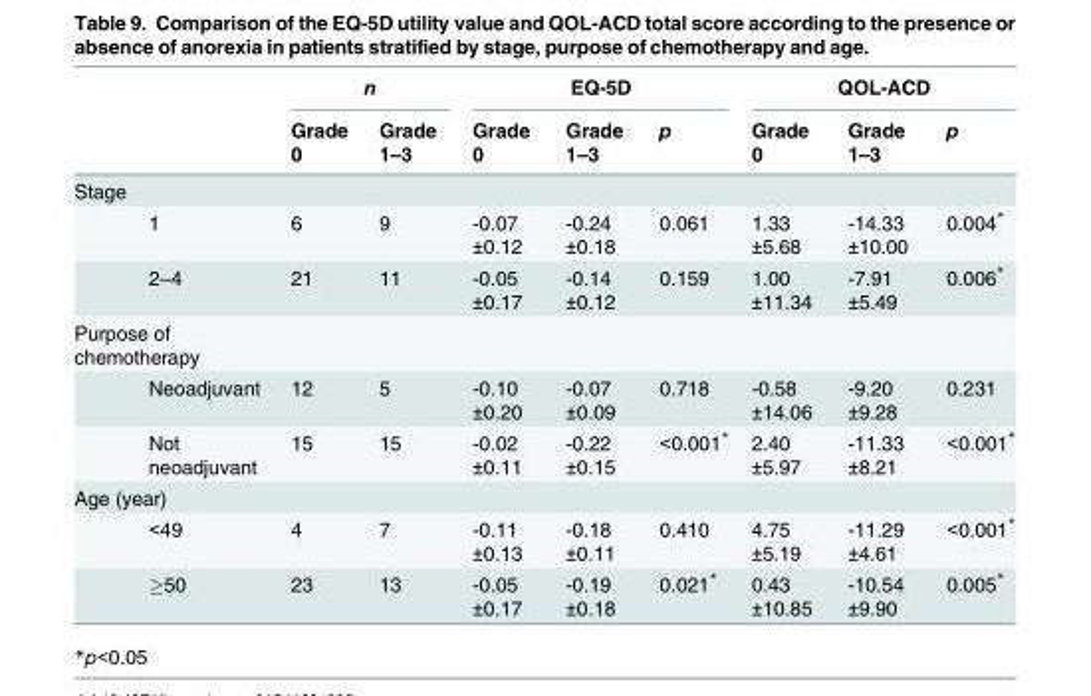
<table><thead><tr><td rowspan="2"></td><td rowspan="2"></td><td colspan="2">n</td><td colspan="3">EQ-5D</td><td colspan="3">QOL-ACD</td></tr><tr><td>Grade 0</td><td>Grade 1–3</td><td>Grade 0</td><td>Grade 1–3</td><td>p</td><td>Grade 0</td><td>Grade 1–3</td><td>p</td></tr></thead><tbody><tr><td colspan="10">Stage</td></tr><tr><td></td><td>1</td><td>6</td><td>9</td><td>-0.07 ±0.12</td><td>-0.24 ±0.18</td><td>0.061</td><td>1.33 ±5.68</td><td>-14.33 ±10.00</td><td>0.004*</td></tr><tr><td></td><td>2–4</td><td>21</td><td>11</td><td>-0.05 ±0.17</td><td>-0.14 ±0.12</td><td>0.159</td><td>1.00 ±11.34</td><td>-7.91 ±5.49</td><td>0.006*</td></tr><tr><td colspan="10">Purpose of chemotherapy</td></tr><tr><td></td><td>Neoadjuvant</td><td>12</td><td>5</td><td>-0.10 ±0.20</td><td>-0.07 ±0.09</td><td>0.718</td><td>-0.58 ±14.06</td><td>-9.20 ±9.28</td><td>0.231</td></tr><tr><td></td><td>Not neoadjuvant</td><td>15</td><td>15</td><td>-0.02 ±0.11</td><td>-0.22 ±0.15</td><td>&lt;0.001*</td><td>2.40 ±5.97</td><td>-11.33 ±8.21</td><td>&lt;0.001*</td></tr><tr><td colspan="10">Age (year)</td></tr><tr><td></td><td>&lt;49</td><td>4</td><td>7</td><td>-0.11 ±0.13</td><td>-0.18 ±0.11</td><td>0.410</td><td>4.75 ±5.19</td><td>-11.29 ±4.61</td><td>&lt;0.001*</td></tr><tr><td></td><td>≥50</td><td>23</td><td>13</td><td>-0.05 ±0.17</td><td>-0.19 ±0.18</td><td>0.021*</td><td>0.43 ±10.85</td><td>-10.54 ±9.90</td><td>0.005*</td></tr></tbody></table>